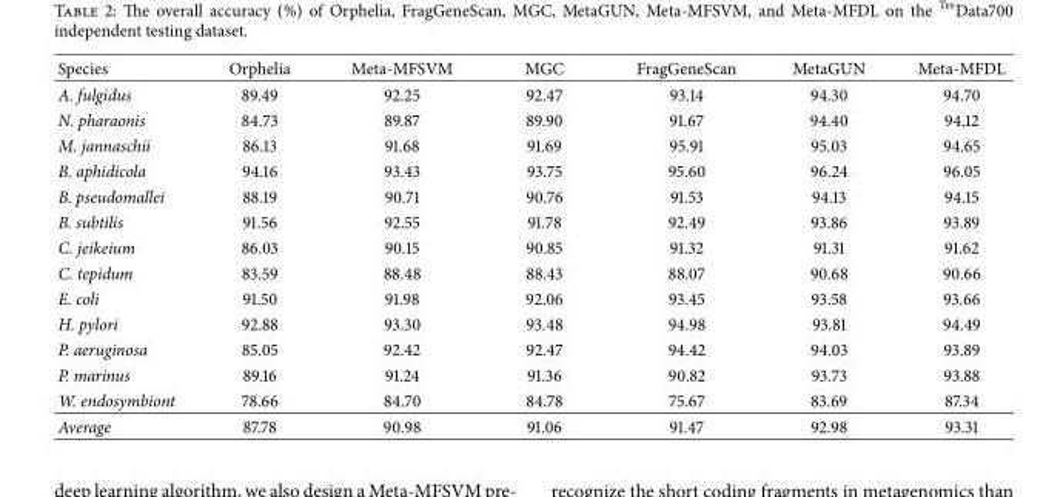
<table><thead><tr><td>Species</td><td>Orphelia</td><td>Meta-MFSVM</td><td>MGC</td><td>FragGeneScan</td><td>MetaGUN</td><td>Meta-MFDL</td></tr></thead><tbody><tr><td>A. fulgidus</td><td>89.49</td><td>92.25</td><td>92.47</td><td>93.14</td><td>94.30</td><td>94.70</td></tr><tr><td>N. pharaonis</td><td>84.73</td><td>89.87</td><td>89.90</td><td>91.67</td><td>94.40</td><td>94.12</td></tr><tr><td>M. jannaschii</td><td>86.13</td><td>91.68</td><td>91.69</td><td>95.91</td><td>95.03</td><td>94.65</td></tr><tr><td>B. aphidicola</td><td>94.16</td><td>93.43</td><td>93.75</td><td>95.60</td><td>96.24</td><td>96.05</td></tr><tr><td>B. pseudomallei</td><td>88.19</td><td>90.71</td><td>90.76</td><td>91.53</td><td>94.13</td><td>94.15</td></tr><tr><td>B. subtilis</td><td>91.56</td><td>92.55</td><td>91.78</td><td>92.49</td><td>93.86</td><td>93.89</td></tr><tr><td>C. jeikeium</td><td>86.03</td><td>90.15</td><td>90.85</td><td>91.32</td><td>91.31</td><td>91.62</td></tr><tr><td>C. tepidum</td><td>83.59</td><td>88.48</td><td>88.43</td><td>88.07</td><td>90.68</td><td>90.66</td></tr><tr><td>E. coli</td><td>91.50</td><td>91.98</td><td>92.06</td><td>93.45</td><td>93.58</td><td>93.66</td></tr><tr><td>H. pylori</td><td>92.88</td><td>93.30</td><td>93.48</td><td>94.98</td><td>93.81</td><td>94.49</td></tr><tr><td>P. aeruginosa</td><td>85.05</td><td>92.42</td><td>92.47</td><td>94.42</td><td>94.03</td><td>93.89</td></tr><tr><td>P. marinus</td><td>89.16</td><td>91.24</td><td>91.36</td><td>90.82</td><td>93.73</td><td>93.88</td></tr><tr><td>W. endosymbiont</td><td>78.66</td><td>84.70</td><td>84.78</td><td>75.67</td><td>83.69</td><td>87.34</td></tr><tr><td>Average</td><td>87.78</td><td>90.98</td><td>91.06</td><td>91.47</td><td>92.98</td><td>93.31</td></tr></tbody></table>